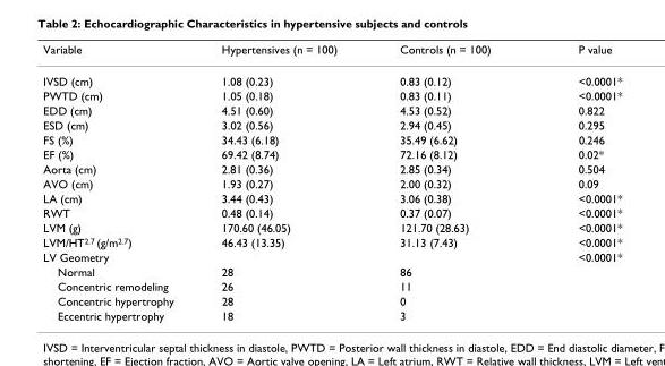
<table><thead><tr><td>Variable</td><td>Hypertensives (n = 100)</td><td>Controls (n = 100)</td><td>P value</td></tr></thead><tbody><tr><td>IVSD (cm)</td><td>1.08 (0.23)</td><td>0.83 (0.12)</td><td>&lt;0.0001*</td></tr><tr><td>PWTD (cm)</td><td>1.05 (0.18)</td><td>0.83 (0.11)</td><td>&lt;0.0001*</td></tr><tr><td>EDD (cm)</td><td>4.51 (0.60)</td><td>4.53 (0.52)</td><td>0.822</td></tr><tr><td>ESD (cm)</td><td>3.02 (0.56)</td><td>2.94 (0.45)</td><td>0.295</td></tr><tr><td>FS (%)</td><td>34.43 (6.18)</td><td>35.49 (6.62)</td><td>0.246</td></tr><tr><td>EF (%)</td><td>69.42 (8.74)</td><td>72.16 (8.12)</td><td>0.02*</td></tr><tr><td>Aorta (cm)</td><td>2.81 (0.36)</td><td>2.85 (0.34)</td><td>0.504</td></tr><tr><td>AVO (cm)</td><td>1.93 (0.27)</td><td>2.00 (0.32)</td><td>0.09</td></tr><tr><td>LA (cm)</td><td>3.44 (0.43)</td><td>3.06 (0.38)</td><td>&lt;0.0001*</td></tr><tr><td>RWT</td><td>0.48 (0.14)</td><td>0.37 (0.07)</td><td>&lt;0.0001*</td></tr><tr><td>LVM (g)</td><td>170.60 (46.05)</td><td>121.70 (28.63)</td><td>&lt;0.0001*</td></tr><tr><td>LVM/HT<sup>2.7</sup> (g/m<sup>2.7</sup>)</td><td>46.43 (13.35)</td><td>31.13 (7.43)</td><td>&lt;0.0001*</td></tr><tr><td>LV Geometry</td><td></td><td></td><td>&lt;0.0001*</td></tr><tr><td>Normal</td><td>28</td><td>86</td><td></td></tr><tr><td>Concentric remodeling</td><td>26</td><td>11</td><td></td></tr><tr><td>Concentric hypertrophy</td><td>28</td><td>0</td><td></td></tr><tr><td>Eccentric hypertrophy</td><td>18</td><td>3</td><td></td></tr></tbody></table>